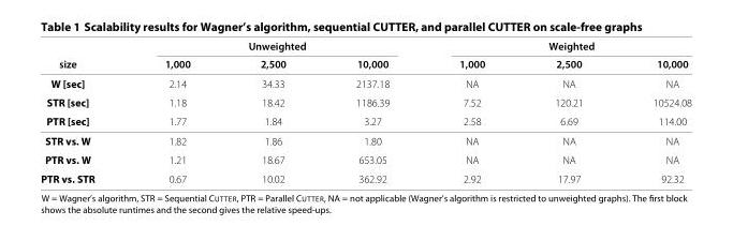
<table><thead><tr><td rowspan="2">size</td><td colspan="3">Unweighted</td><td colspan="3">Weighted</td></tr><tr><td>1,000</td><td>2,500</td><td>10,000</td><td>1,000</td><td>2,500</td><td>10,000</td></tr></thead><tbody><tr><td>W [sec]</td><td>2.14</td><td>34.33</td><td>2137.18</td><td>NA</td><td>NA</td><td>NA</td></tr><tr><td>STR [sec]</td><td>1.18</td><td>18.42</td><td>1186.39</td><td>7.52</td><td>120.21</td><td>10524.08</td></tr><tr><td>PTR [sec]</td><td>1.77</td><td>1.84</td><td>3.27</td><td>2.58</td><td>6.69</td><td>114.00</td></tr><tr><td>STR vs. W</td><td>1.82</td><td>1.86</td><td>1.80</td><td>NA</td><td>NA</td><td>NA</td></tr><tr><td>PTR vs. W</td><td>1.21</td><td>18.67</td><td>653.05</td><td>NA</td><td>NA</td><td>NA</td></tr><tr><td>PTR vs. STR</td><td>0.67</td><td>10.02</td><td>362.92</td><td>2.92</td><td>17.97</td><td>92.32</td></tr></tbody></table>